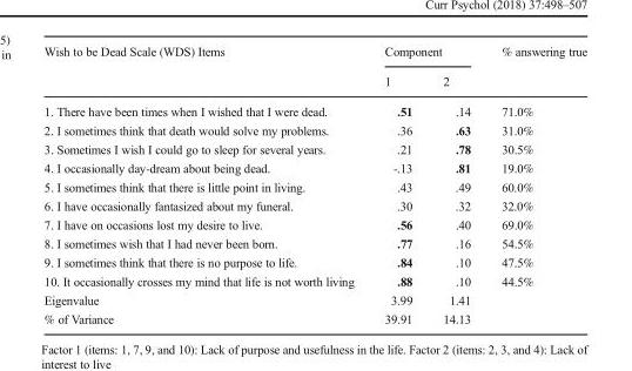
<table><thead><tr><td rowspan="2">Wish to be Dead Scale (WDS) Items</td><td colspan="2">Component</td><td rowspan="2">% answering true</td></tr><tr><td>1</td><td>2</td></tr></thead><tbody><tr><td>1. There have been times when I wished that I were dead.</td><td>.51</td><td>.14</td><td>71.0%</td></tr><tr><td>2. I sometimes think that death would solve my problems.</td><td>.36</td><td>.63</td><td>31.0%</td></tr><tr><td>3. Sometimes I wish I could go to sleep for several years.</td><td>.21</td><td>.78</td><td>30.5%</td></tr><tr><td>4. I occasionally day-dream about being dead.</td><td>-.13</td><td>.81</td><td>19.0%</td></tr><tr><td>5. I sometimes think that there is little point in living.</td><td>.43</td><td>.49</td><td>60.0%</td></tr><tr><td>6. I have occasionally fantasized about my funeral.</td><td>.30</td><td>.32</td><td>32.0%</td></tr><tr><td>7. I have on occasions lost my desire to live.</td><td>.56</td><td>.40</td><td>69.0%</td></tr><tr><td>8. I sometimes wish that I had never been born.</td><td>.77</td><td>.16</td><td>54.5%</td></tr><tr><td>9. I sometimes think that there is no purpose to life.</td><td>.84</td><td>.10</td><td>47.5%</td></tr><tr><td>10. It occasionally crosses my mind that life is not worth living</td><td>.88</td><td>.10</td><td>44.5%</td></tr><tr><td>Eigenvalue</td><td>3.99</td><td>1.41</td><td></td></tr><tr><td>% of Variance</td><td>39.91</td><td>14.13</td><td></td></tr></tbody></table>